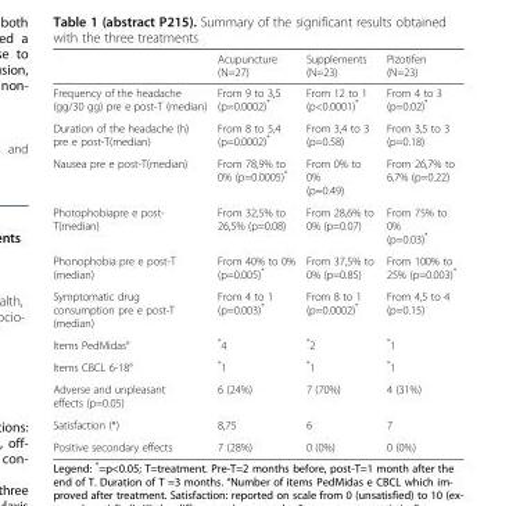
<table><thead><tr><td></td><td>Acupuncture (N=27)</td><td>Supplements (N=23)</td><td>Pizotifen (N=23)</td></tr></thead><tbody><tr><td>Frequency of the headache (gg/30 gg) pre e post-T (median)</td><td>From 9 to 3,5 (p=0.0002)*</td><td>From 12 to 1 (p&lt;0.0001)*</td><td>From 4 to 3 (p=0.02)*</td></tr><tr><td>Duration of the headache (h) pre e post-T(median)</td><td>From 8 to 5,4 (p=0.0002)*</td><td>From 3,4 to 3 (p=0.58)</td><td>From 3,5 to 3 (p=0.18)</td></tr><tr><td>Nausea pre e post-T(median)</td><td>From 78,9% to 0% (p=0.0005)*</td><td>From 0% to 0% (p=0.49)</td><td>From 26,7% to 6,7% (p=0.22)</td></tr><tr><td>Photophobiapre e post- T(median)</td><td>From 32,5% to 26,5% (p=0.08)</td><td>From 28,6% to 0% (p=0.07)</td><td>From 75% to 0% (p=0.03)*</td></tr><tr><td>Phonophobia pre e post-T (median)</td><td>From 40% to 0% (p=0.005)*</td><td>From 37,5% to 0% (p=0.85)</td><td>From 100% to 25% (p=0.003)*</td></tr><tr><td>Symptomatic drug consumption pre e post-T (median)</td><td>From 4 to 1 (p=0.003)*</td><td>From 8 to 1 (p=0.0002)*</td><td>From 4,5 to 4 (p=0.15)</td></tr><tr><td>Items PedMidas°</td><td>*4</td><td>*2</td><td>*1</td></tr><tr><td>Items CBCL 6-18°</td><td>*1</td><td>*1</td><td>*1</td></tr><tr><td>Adverse and unpleasant effects (p=0.05)</td><td>6 (24%)</td><td>7 (70%)</td><td>4 (31%)</td></tr><tr><td>Satisfaction (*)</td><td>8,75</td><td>6</td><td>7</td></tr><tr><td>Positive secondary effects</td><td>7 (28%)</td><td>0 (0%)</td><td>0 (0%)</td></tr></tbody></table>